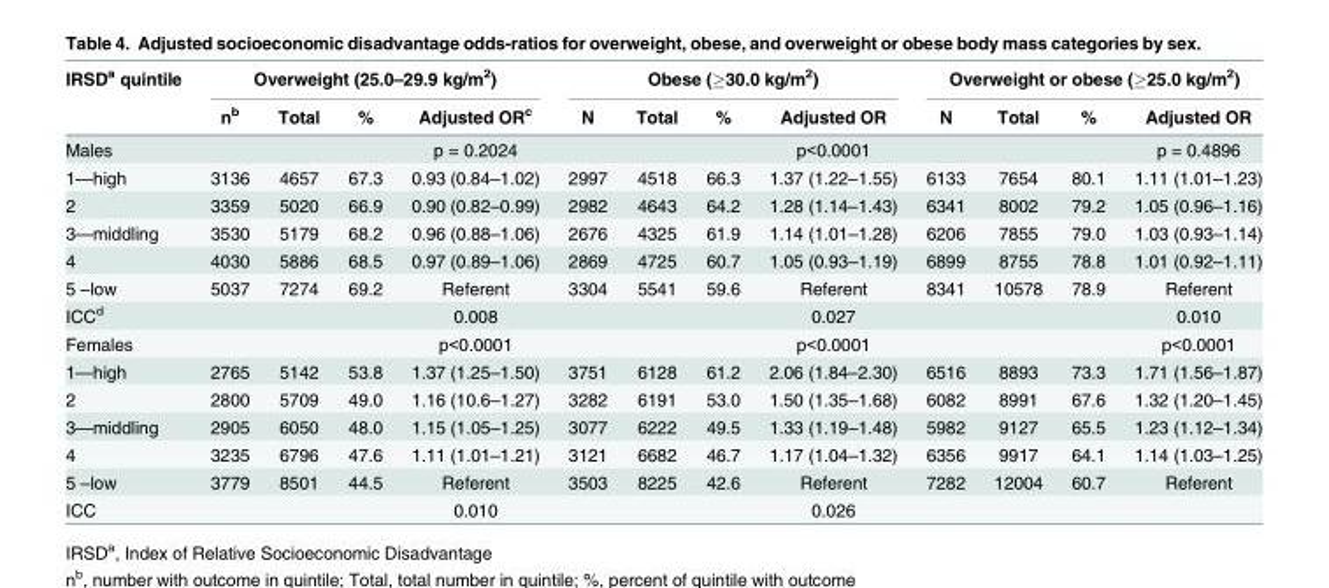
<table><thead><tr><td rowspan="2">IRSD<sup>a</sup> quintile</td><td colspan="4">Overweight (25.0–29.9 kg/m<sup>2</sup>)</td><td colspan="4">Obese (≥30.0 kg/m<sup>2</sup>)</td><td colspan="4">Overweight or obese (≥25.0 kg/m<sup>2</sup>)</td></tr><tr><td>n<sup>b</sup></td><td>Total</td><td>%</td><td>Adjusted OR<sup>c</sup></td><td>N</td><td>Total</td><td>%</td><td>Adjusted OR</td><td>N</td><td>Total</td><td>%</td><td>Adjusted OR</td></tr></thead><tbody><tr><td>Males</td><td colspan="3"></td><td>p = 0.2024</td><td colspan="3"></td><td>p&lt;0.0001</td><td colspan="3"></td><td>p = 0.4896</td></tr><tr><td>1—high</td><td>3136</td><td>4657</td><td>67.3</td><td>0.93 (0.84–1.02)</td><td>2997</td><td>4518</td><td>66.3</td><td>1.37 (1.22–1.55)</td><td>6133</td><td>7654</td><td>80.1</td><td>1.11 (1.01–1.23)</td></tr><tr><td>2</td><td>3359</td><td>5020</td><td>66.9</td><td>0.90 (0.82–0.99)</td><td>2982</td><td>4643</td><td>64.2</td><td>1.28 (1.14–1.43)</td><td>6341</td><td>8002</td><td>79.2</td><td>1.05 (0.96–1.16)</td></tr><tr><td>3—middling</td><td>3530</td><td>5179</td><td>68.2</td><td>0.96 (0.88–1.06)</td><td>2676</td><td>4325</td><td>61.9</td><td>1.14 (1.01–1.28)</td><td>6206</td><td>7855</td><td>79.0</td><td>1.03 (0.93–1.14)</td></tr><tr><td>4</td><td>4030</td><td>5886</td><td>68.5</td><td>0.97 (0.89–1.06)</td><td>2869</td><td>4725</td><td>60.7</td><td>1.05 (0.93–1.19)</td><td>6899</td><td>8755</td><td>78.8</td><td>1.01 (0.92–1.11)</td></tr><tr><td>5 –low</td><td>5037</td><td>7274</td><td>69.2</td><td>Referent</td><td>3304</td><td>5541</td><td>59.6</td><td>Referent</td><td>8341</td><td>10578</td><td>78.9</td><td>Referent</td></tr><tr><td>ICC<sup>d</sup></td><td colspan="3"></td><td>0.008</td><td colspan="3"></td><td>0.027</td><td colspan="3"></td><td>0.010</td></tr><tr><td>Females</td><td colspan="3"></td><td>p&lt;0.0001</td><td colspan="3"></td><td>p&lt;0.0001</td><td colspan="3"></td><td>p&lt;0.0001</td></tr><tr><td>1—high</td><td>2765</td><td>5142</td><td>53.8</td><td>1.37 (1.25–1.50)</td><td>3751</td><td>6128</td><td>61.2</td><td>2.06 (1.84–2.30)</td><td>6516</td><td>8893</td><td>73.3</td><td>1.71 (1.56–1.87)</td></tr><tr><td>2</td><td>2800</td><td>5709</td><td>49.0</td><td>1.16 (10.6–1.27)</td><td>3282</td><td>6191</td><td>53.0</td><td>1.50 (1.35–1.68)</td><td>6082</td><td>8991</td><td>67.6</td><td>1.32 (1.20–1.45)</td></tr><tr><td>3—middling</td><td>2905</td><td>6050</td><td>48.0</td><td>1.15 (1.05–1.25)</td><td>3077</td><td>6222</td><td>49.5</td><td>1.33 (1.19–1.48)</td><td>5982</td><td>9127</td><td>65.5</td><td>1.23 (1.12–1.34)</td></tr><tr><td>4</td><td>3235</td><td>6796</td><td>47.6</td><td>1.11 (1.01–1.21)</td><td>3121</td><td>6682</td><td>46.7</td><td>1.17 (1.04–1.32)</td><td>6356</td><td>9917</td><td>64.1</td><td>1.14 (1.03–1.25)</td></tr><tr><td>5 –low</td><td>3779</td><td>8501</td><td>44.5</td><td>Referent</td><td>3503</td><td>8225</td><td>42.6</td><td>Referent</td><td>7282</td><td>12004</td><td>60.7</td><td>Referent</td></tr><tr><td>ICC</td><td colspan="3"></td><td>0.010</td><td colspan="3"></td><td>0.026</td><td colspan="3"></td><td></td></tr></tbody></table>